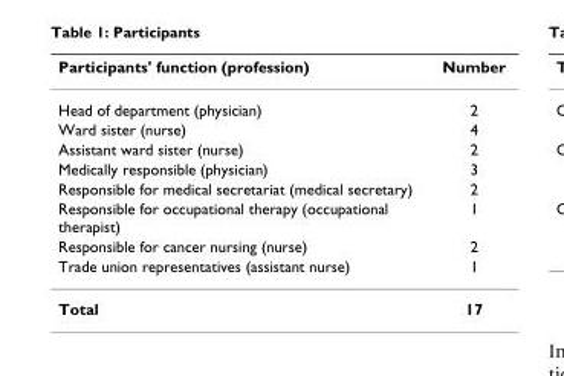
<table><thead><tr><td>Participants&#x27; function (profession)</td><td>Number</td></tr></thead><tbody><tr><td>Head of department (physician)</td><td>2</td></tr><tr><td>Ward sister (nurse)</td><td>4</td></tr><tr><td>Assistant ward sister (nurse)</td><td>2</td></tr><tr><td>Medically responsible (physician)</td><td>3</td></tr><tr><td>Responsible for medical secretariat (medical secretary)</td><td>2</td></tr><tr><td>Responsible for occupational therapy (occupational therapist)</td><td>1</td></tr><tr><td>Responsible for cancer nursing (nurse)</td><td>2</td></tr><tr><td>Trade union representatives (assistant nurse)</td><td>1</td></tr><tr><td>Total</td><td>17</td></tr></tbody></table>